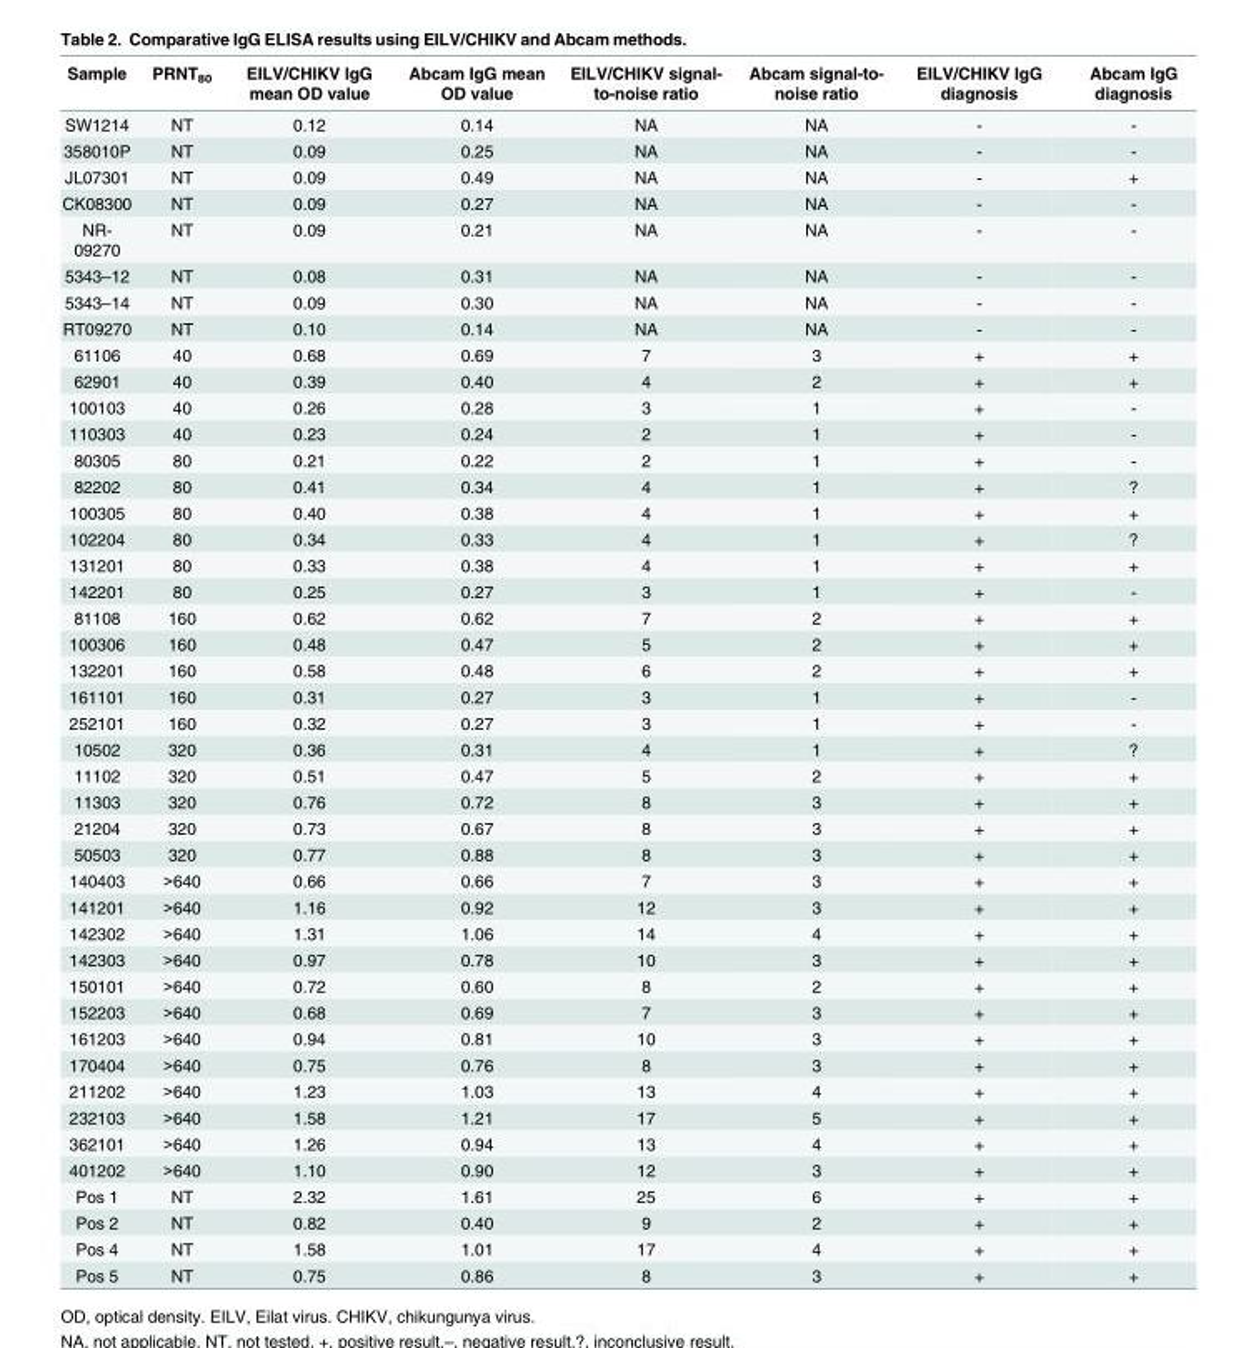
<table><thead><tr><td>Sample</td><td>PRNT<sub>80</sub></td><td>EILV/CHIKV IgG mean OD value</td><td>Abcam IgG mean OD value</td><td>EILV/CHIKV signal- to-noise ratio</td><td>Abcam signal-to- noise ratio</td><td>EILV/CHIKV IgG diagnosis</td><td>Abcam IgG diagnosis</td></tr></thead><tbody><tr><td>SW1214</td><td>NT</td><td>0.12</td><td>0.14</td><td>NA</td><td>NA</td><td>-</td><td>-</td></tr><tr><td>358010P</td><td>NT</td><td>0.09</td><td>0.25</td><td>NA</td><td>NA</td><td>-</td><td>-</td></tr><tr><td>JL07301</td><td>NT</td><td>0.09</td><td>0.49</td><td>NA</td><td>NA</td><td>-</td><td>+</td></tr><tr><td>CK08300</td><td>NT</td><td>0.09</td><td>0.27</td><td>NA</td><td>NA</td><td>-</td><td>-</td></tr><tr><td>NR- 09270</td><td>NT</td><td>0.09</td><td>0.21</td><td>NA</td><td>NA</td><td>-</td><td>-</td></tr><tr><td>5343–12</td><td>NT</td><td>0.08</td><td>0.31</td><td>NA</td><td>NA</td><td>-</td><td>-</td></tr><tr><td>5343–14</td><td>NT</td><td>0.09</td><td>0.30</td><td>NA</td><td>NA</td><td>-</td><td>-</td></tr><tr><td>RT09270</td><td>NT</td><td>0.10</td><td>0.14</td><td>NA</td><td>NA</td><td>-</td><td>-</td></tr><tr><td>61106</td><td>40</td><td>0.68</td><td>0.69</td><td>7</td><td>3</td><td>+</td><td>+</td></tr><tr><td>62901</td><td>40</td><td>0.39</td><td>0.40</td><td>4</td><td>2</td><td>+</td><td>+</td></tr><tr><td>100103</td><td>40</td><td>0.26</td><td>0.28</td><td>3</td><td>1</td><td>+</td><td>-</td></tr><tr><td>110303</td><td>40</td><td>0.23</td><td>0.24</td><td>2</td><td>1</td><td>+</td><td>-</td></tr><tr><td>80305</td><td>80</td><td>0.21</td><td>0.22</td><td>2</td><td>1</td><td>+</td><td>-</td></tr><tr><td>82202</td><td>80</td><td>0.41</td><td>0.34</td><td>4</td><td>1</td><td>+</td><td>?</td></tr><tr><td>100305</td><td>80</td><td>0.40</td><td>0.38</td><td>4</td><td>1</td><td>+</td><td>+</td></tr><tr><td>102204</td><td>80</td><td>0.34</td><td>0.33</td><td>4</td><td>1</td><td>+</td><td>?</td></tr><tr><td>131201</td><td>80</td><td>0.33</td><td>0.38</td><td>4</td><td>1</td><td>+</td><td>+</td></tr><tr><td>142201</td><td>80</td><td>0.25</td><td>0.27</td><td>3</td><td>1</td><td>+</td><td>-</td></tr><tr><td>81108</td><td>160</td><td>0.62</td><td>0.62</td><td>7</td><td>2</td><td>+</td><td>+</td></tr><tr><td>100306</td><td>160</td><td>0.48</td><td>0.47</td><td>5</td><td>2</td><td>+</td><td>+</td></tr><tr><td>132201</td><td>160</td><td>0.58</td><td>0.48</td><td>6</td><td>2</td><td>+</td><td>+</td></tr><tr><td>161101</td><td>160</td><td>0.31</td><td>0.27</td><td>3</td><td>1</td><td>+</td><td>-</td></tr><tr><td>252101</td><td>160</td><td>0.32</td><td>0.27</td><td>3</td><td>1</td><td>+</td><td>-</td></tr><tr><td>10502</td><td>320</td><td>0.36</td><td>0.31</td><td>4</td><td>1</td><td>+</td><td>?</td></tr><tr><td>11102</td><td>320</td><td>0.51</td><td>0.47</td><td>5</td><td>2</td><td>+</td><td>+</td></tr><tr><td>11303</td><td>320</td><td>0.76</td><td>0.72</td><td>8</td><td>3</td><td>+</td><td>+</td></tr><tr><td>21204</td><td>320</td><td>0.73</td><td>0.67</td><td>8</td><td>3</td><td>+</td><td>+</td></tr><tr><td>50503</td><td>320</td><td>0.77</td><td>0.88</td><td>8</td><td>3</td><td>+</td><td>+</td></tr><tr><td>140403</td><td>&gt;640</td><td>0.66</td><td>0.66</td><td>7</td><td>3</td><td>+</td><td>+</td></tr><tr><td>141201</td><td>&gt;640</td><td>1.16</td><td>0.92</td><td>12</td><td>3</td><td>+</td><td>+</td></tr><tr><td>142302</td><td>&gt;640</td><td>1.31</td><td>1.06</td><td>14</td><td>4</td><td>+</td><td>+</td></tr><tr><td>142303</td><td>&gt;640</td><td>0.97</td><td>0.78</td><td>10</td><td>3</td><td>+</td><td>+</td></tr><tr><td>150101</td><td>&gt;640</td><td>0.72</td><td>0.60</td><td>8</td><td>2</td><td>+</td><td>+</td></tr><tr><td>152203</td><td>&gt;640</td><td>0.68</td><td>0.69</td><td>7</td><td>3</td><td>+</td><td>+</td></tr><tr><td>161203</td><td>&gt;640</td><td>0.94</td><td>0.81</td><td>10</td><td>3</td><td>+</td><td>+</td></tr><tr><td>170404</td><td>&gt;640</td><td>0.75</td><td>0.76</td><td>8</td><td>3</td><td>+</td><td>+</td></tr><tr><td>211202</td><td>&gt;640</td><td>1.23</td><td>1.03</td><td>13</td><td>4</td><td>+</td><td>+</td></tr><tr><td>232103</td><td>&gt;640</td><td>1.58</td><td>1.21</td><td>17</td><td>5</td><td>+</td><td>+</td></tr><tr><td>362101</td><td>&gt;640</td><td>1.26</td><td>0.94</td><td>13</td><td>4</td><td>+</td><td>+</td></tr><tr><td>401202</td><td>&gt;640</td><td>1.10</td><td>0.90</td><td>12</td><td>3</td><td>+</td><td>+</td></tr><tr><td>Pos 1</td><td>NT</td><td>2.32</td><td>1.61</td><td>25</td><td>6</td><td>+</td><td>+</td></tr><tr><td>Pos 2</td><td>NT</td><td>0.82</td><td>0.40</td><td>9</td><td>2</td><td>+</td><td>+</td></tr><tr><td>Pos 4</td><td>NT</td><td>1.58</td><td>1.01</td><td>17</td><td>4</td><td>+</td><td>+</td></tr><tr><td>Pos 5</td><td>NT</td><td>0.75</td><td>0.86</td><td>8</td><td>3</td><td>+</td><td>+</td></tr></tbody></table>